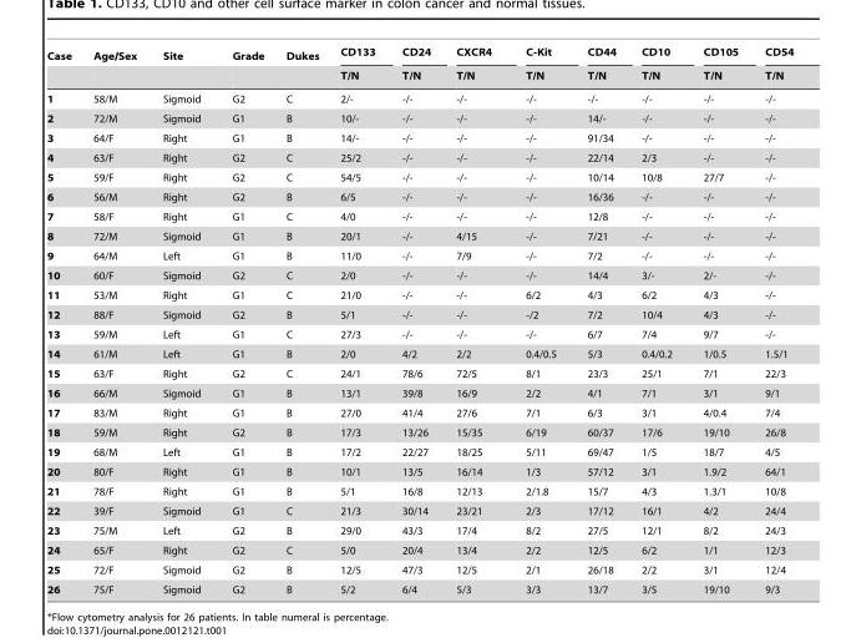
<table><thead><tr><td rowspan="2">Case</td><td rowspan="2">Age//Sex</td><td rowspan="2">Site</td><td rowspan="2">Grade</td><td rowspan="2">Dukes</td><td rowspan="2">CD133 T/N</td><td rowspan="2">CD24 T/N</td><td rowspan="2">CXCR4 T/N</td><td rowspan="2">C-Kit T/N</td><td rowspan="2">CD44 T/N</td><td rowspan="2">CD10 T/N</td><td rowspan="2">CD105 T/N</td><td rowspan="2">CD54 T/N</td></tr><tr></tr></thead><tbody><tr><td>1</td><td>58/M</td><td>Sigmoid</td><td>G2</td><td>C</td><td>2/-</td><td>-/-</td><td>-/-</td><td>-/-</td><td>-/-</td><td>-/-</td><td>-/-</td><td>-/-</td></tr><tr><td>2</td><td>72/M</td><td>Sigmoid</td><td>G1</td><td>B</td><td>10/-</td><td>-/-</td><td>-/-</td><td>-/-</td><td>14/-</td><td>-/-</td><td>-/-</td><td>-/-</td></tr><tr><td>3</td><td>64/F</td><td>Right</td><td>G1</td><td>B</td><td>14/-</td><td>-/-</td><td>-/-</td><td>-/-</td><td>91/34</td><td>-/-</td><td>-/-</td><td>-/-</td></tr><tr><td>4</td><td>63/F</td><td>Right</td><td>G2</td><td>C</td><td>25/2</td><td>-/-</td><td>-/-</td><td>-/-</td><td>22/14</td><td>2/3</td><td>-/-</td><td>-/-</td></tr><tr><td>5</td><td>59/F</td><td>Right</td><td>G2</td><td>C</td><td>54/5</td><td>-/-</td><td>-/-</td><td>-/-</td><td>10/14</td><td>10/8</td><td>27/7</td><td>-/-</td></tr><tr><td>6</td><td>56/M</td><td>Right</td><td>G2</td><td>B</td><td>6/5</td><td>-/-</td><td>-/-</td><td>-/-</td><td>16/36</td><td>-/-</td><td>-/-</td><td>-/-</td></tr><tr><td>7</td><td>58/F</td><td>Right</td><td>G1</td><td>C</td><td>4/0</td><td>-/-</td><td>-/-</td><td>-/-</td><td>12/8</td><td>-/-</td><td>-/-</td><td>-/-</td></tr><tr><td>8</td><td>72/M</td><td>Sigmoid</td><td>G1</td><td>B</td><td>20/1</td><td>-/-</td><td>4/15</td><td>-/-</td><td>7/21</td><td>-/-</td><td>-/-</td><td>-/-</td></tr><tr><td>9</td><td>64/M</td><td>Left</td><td>G1</td><td>B</td><td>11/0</td><td>-/-</td><td>7/9</td><td>-/-</td><td>7/2</td><td>-/-</td><td>-/-</td><td>-/-</td></tr><tr><td>10</td><td>60/F</td><td>Sigmoid</td><td>G2</td><td>C</td><td>2/0</td><td>-/-</td><td>-/-</td><td>-/-</td><td>14/4</td><td>3/-</td><td>2/-</td><td>-/-</td></tr><tr><td>11</td><td>53/M</td><td>Right</td><td>G1</td><td>C</td><td>21/0</td><td>-/-</td><td>-/-</td><td>6/2</td><td>4/3</td><td>6/2</td><td>4/3</td><td>-/-</td></tr><tr><td>12</td><td>88/F</td><td>Sigmoid</td><td>G2</td><td>B</td><td>5/1</td><td>-/-</td><td>-/-</td><td>-/2</td><td>7/2</td><td>10/4</td><td>4/3</td><td>-/-</td></tr><tr><td>13</td><td>59/M</td><td>Left</td><td>G1</td><td>C</td><td>27/3</td><td>-/-</td><td>-/-</td><td>-/-</td><td>6/7</td><td>7/4</td><td>9/7</td><td>-/-</td></tr><tr><td>14</td><td>61/M</td><td>Left</td><td>G1</td><td>B</td><td>2/0</td><td>4/2</td><td>2/2</td><td>0.4/0.5</td><td>5/3</td><td>0.4/0.2</td><td>1/0.5</td><td>1.5/1</td></tr><tr><td>15</td><td>63/F</td><td>Right</td><td>G2</td><td>C</td><td>24/1</td><td>78/6</td><td>72/5</td><td>8/1</td><td>23/3</td><td>25/1</td><td>7/1</td><td>22/3</td></tr><tr><td>16</td><td>66/M</td><td>Sigmoid</td><td>G1</td><td>B</td><td>13/1</td><td>39/8</td><td>16/9</td><td>2/2</td><td>4/1</td><td>7/1</td><td>3/1</td><td>9/1</td></tr><tr><td>17</td><td>83/M</td><td>Right</td><td>G1</td><td>B</td><td>27/0</td><td>41/4</td><td>27/6</td><td>7/1</td><td>6/3</td><td>3/1</td><td>4/0.4</td><td>7/4</td></tr><tr><td>18</td><td>59/M</td><td>Right</td><td>G2</td><td>B</td><td>17/3</td><td>13/26</td><td>15/35</td><td>6/19</td><td>60/37</td><td>17/6</td><td>19/10</td><td>26/8</td></tr><tr><td>19</td><td>68/M</td><td>Left</td><td>G1</td><td>B</td><td>17/2</td><td>22/27</td><td>18/25</td><td>5/11</td><td>69/47</td><td>1/5</td><td>18/7</td><td>4/5</td></tr><tr><td>20</td><td>80/F</td><td>Right</td><td>G1</td><td>B</td><td>10/1</td><td>13/5</td><td>16/14</td><td>1/3</td><td>57/12</td><td>3/1</td><td>1.9/2</td><td>64/1</td></tr><tr><td>21</td><td>78/F</td><td>Right</td><td>G1</td><td>B</td><td>5/1</td><td>16/8</td><td>12/13</td><td>2/1.8</td><td>15/7</td><td>4/3</td><td>1.3/1</td><td>10/8</td></tr><tr><td>22</td><td>39/F</td><td>Sigmoid</td><td>G1</td><td>C</td><td>21/3</td><td>30/14</td><td>23/21</td><td>2/3</td><td>17/12</td><td>16/1</td><td>4/2</td><td>24/4</td></tr><tr><td>23</td><td>75/M</td><td>Left</td><td>G2</td><td>B</td><td>29/0</td><td>43/3</td><td>17/4</td><td>8/2</td><td>27/5</td><td>12/1</td><td>8/2</td><td>24/3</td></tr><tr><td>24</td><td>65/F</td><td>Right</td><td>G2</td><td>C</td><td>5/0</td><td>20/4</td><td>13/4</td><td>2/2</td><td>12/5</td><td>6/2</td><td>1/1</td><td>12/3</td></tr><tr><td>25</td><td>72/F</td><td>Sigmoid</td><td>G2</td><td>B</td><td>12/5</td><td>47/3</td><td>12/5</td><td>2/1</td><td>26/18</td><td>2/2</td><td>3/1</td><td>12/4</td></tr><tr><td>26</td><td>75/F</td><td>Sigmoid</td><td>G2</td><td>B</td><td>5/2</td><td>6/4</td><td>5/3</td><td>3/3</td><td>13/7</td><td>3/5</td><td>19/10</td><td>9/3</td></tr></tbody></table>